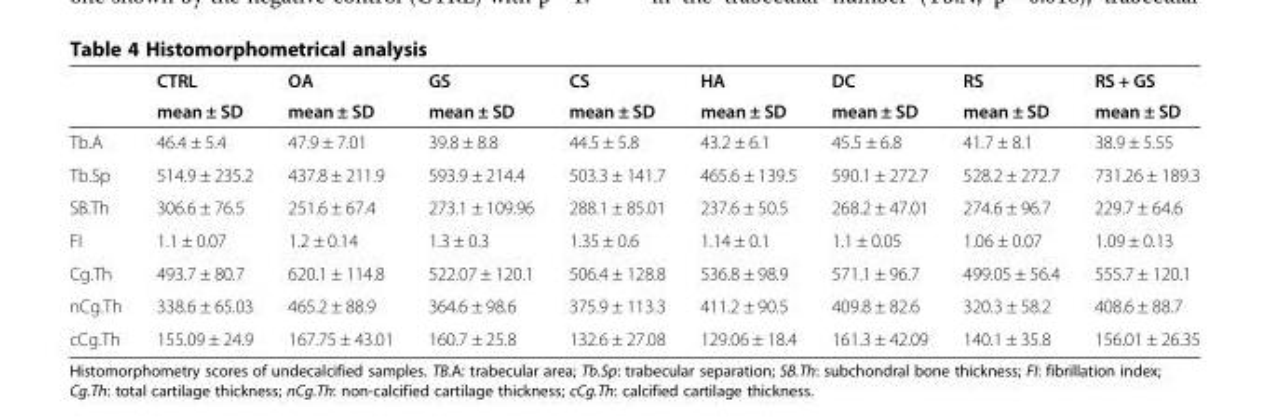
<table><thead><tr><td rowspan="2"></td><td rowspan="2">CTRL mean ± SD</td><td rowspan="2">OA mean ± SD</td><td rowspan="2">GS mean ± SD</td><td rowspan="2">CS mean ± SD</td><td rowspan="2">HA mean ± SD</td><td rowspan="2">DC mean ± SD</td><td rowspan="2">RS mean ± SD</td><td rowspan="2">RS + GS mean ± SD</td></tr><tr></tr></thead><tbody><tr><td>Tb.A</td><td>46.4 ± 5.4</td><td>47.9 ± 7.01</td><td>39.8 ± 8.8</td><td>44.5 ± 5.8</td><td>43.2 ± 6.1</td><td>45.5 ± 6.8</td><td>41.7 ± 8.1</td><td>38.9 ± 5.55</td></tr><tr><td>Tb.Sp</td><td>514.9 ± 235.2</td><td>437.8 ± 211.9</td><td>593.9 ± 214.4</td><td>503.3 ± 141.7</td><td>465.6 ± 139.5</td><td>590.1 ± 272.7</td><td>528.2 ± 272.7</td><td>731.26 ± 189.3</td></tr><tr><td>SB.Th</td><td>306.6 ± 76.5</td><td>251.6 ± 67.4</td><td>273.1 ± 109.96</td><td>288.1 ± 85.01</td><td>237.6 ± 50.5</td><td>268.2 ± 47.01</td><td>274.6 ± 96.7</td><td>229.7 ± 64.6</td></tr><tr><td>FI</td><td>1.1 ± 0.07</td><td>1.2 ± 0.14</td><td>1.3 ± 0.3</td><td>1.35 ± 0.6</td><td>1.14 ± 0.1</td><td>1.1 ± 0.05</td><td>1.06 ± 0.07</td><td>1.09 ± 0.13</td></tr><tr><td>Cg.Th</td><td>493.7 ± 80.7</td><td>620.1 ± 114.8</td><td>522.07 ± 120.1</td><td>506.4 ± 128.8</td><td>536.8 ± 98.9</td><td>571.1 ± 96.7</td><td>499.05 ± 56.4</td><td>555.7 ± 120.1</td></tr><tr><td>nCg.Th</td><td>338.6 ± 65.03</td><td>465.2 ± 88.9</td><td>364.6 ± 98.6</td><td>375.9 ± 113.3</td><td>411.2 ± 90.5</td><td>409.8 ± 82.6</td><td>320.3 ± 58.2</td><td>408.6 ± 88.7</td></tr><tr><td>cCg.Th</td><td>155.09 ± 24.9</td><td>167.75 ± 43.01</td><td>160.7 ± 25.8</td><td>132.6 ± 27.08</td><td>129.06 ± 18.4</td><td>161.3 ± 42.09</td><td>140.1 ± 35.8</td><td>156.01 ± 26.35</td></tr></tbody></table>